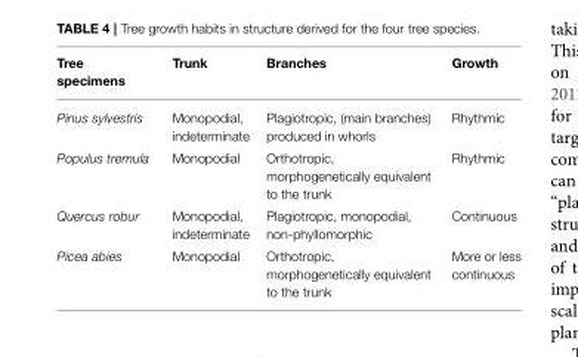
<table><thead><tr><td>Tree specimens</td><td>Trunk</td><td>Branches</td><td>Growth</td></tr></thead><tbody><tr><td>Pinus sylvestris</td><td>Monopodial, indeterminate</td><td>Plagiotropic, (main branches) produced in whorls</td><td>Rhythmic</td></tr><tr><td>Populus tremula</td><td>Monopodial</td><td>Orthotropic, morphogenetically equivalent to the trunk</td><td>Rhythmic</td></tr><tr><td>Quercus robur</td><td>Monopodial, indeterminate</td><td>Plagiotropic, monopodial, non-phyllomorphic</td><td>Continuous</td></tr><tr><td>Picea abies</td><td>Monopodial</td><td>Orthotropic, morphogenetically equivalent to the trunk</td><td>More or less continuous</td></tr></tbody></table>